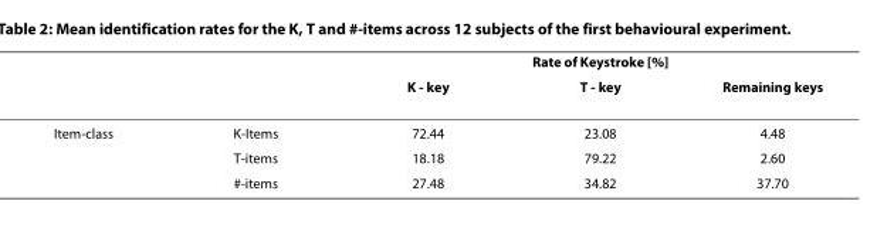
<table><thead><tr><td rowspan="2"></td><td rowspan="2"></td><td colspan="3">Rate of Keystroke [%]</td></tr><tr><td>K - key</td><td>T - key</td><td>Remaining keys</td></tr></thead><tbody><tr><td rowspan="3">Item-class</td><td>K-Items</td><td>72.44</td><td>23.08</td><td>4.48</td></tr><tr><td>T-items</td><td>18.18</td><td>79.22</td><td>2.60</td></tr><tr><td>#-items</td><td>27.48</td><td>34.82</td><td>37.70</td></tr></tbody></table>